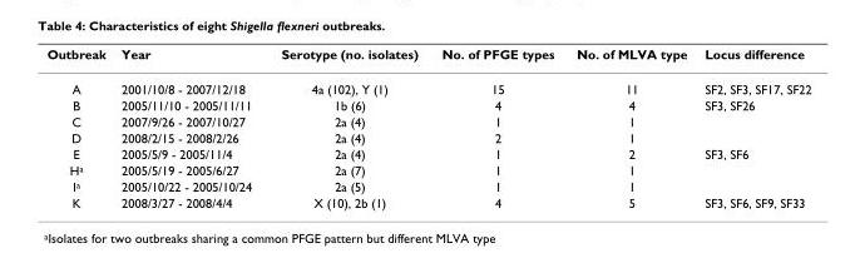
<table><thead><tr><td>Outbreak</td><td>Year</td><td>Serotype (no. isolates)</td><td>No. of PFGE types</td><td>No. of MLVA type</td><td>Locus difference</td></tr></thead><tbody><tr><td>A</td><td>2001/10/8 - 2007/12/18</td><td>4a (102), Y (1)</td><td>15</td><td>11</td><td>SF2, SF3, SF17, SF22</td></tr><tr><td>B</td><td>2005/11/10 - 2005/11/11</td><td>1b (6)</td><td>4</td><td>4</td><td>SF3, SF26</td></tr><tr><td>C</td><td>2007/9/26 - 2007/10/27</td><td>2a (4)</td><td>1</td><td>1</td><td></td></tr><tr><td>D</td><td>2008/2/15 - 2008/2/26</td><td>2a (4)</td><td>2</td><td>1</td><td></td></tr><tr><td>E</td><td>2005/5/9 - 2005/11/4</td><td>2a (4)</td><td>1</td><td>2</td><td>SF3, SF6</td></tr><tr><td>H<sup>a</sup></td><td>2005/5/19 - 2005/6/27</td><td>2a (7)</td><td>1</td><td>1</td><td></td></tr><tr><td>I<sup>a</sup></td><td>2005/10/22 - 2005/10/24</td><td>2a (5)</td><td>1</td><td>1</td><td></td></tr><tr><td>K</td><td>2008/3/27 - 2008/4/4</td><td>X (10), 2b (1)</td><td>4</td><td>5</td><td>SF3, SF6, SF9, SF33</td></tr></tbody></table>